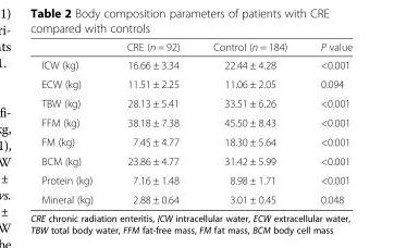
<table><thead><tr><td></td><td>CRE (n = 92)</td><td>Control (n = 184)</td><td>P value</td></tr></thead><tbody><tr><td>ICW (kg)</td><td>16.66 ± 3.34</td><td>22.44 ± 4.28</td><td>&lt;0.001</td></tr><tr><td>ECW (kg)</td><td>11.51 ± 2.25</td><td>11.06 ± 2.05</td><td>0.094</td></tr><tr><td>TBW (kg)</td><td>28.13 ± 5.41</td><td>33.51 ± 6.26</td><td>&lt;0.001</td></tr><tr><td>FFM (kg)</td><td>38.18 ± 7.38</td><td>45.50 ± 8.43</td><td>&lt;0.001</td></tr><tr><td>FM (kg)</td><td>7.45 ± 4.77</td><td>18.30 ± 5.64</td><td>&lt;0.001</td></tr><tr><td>BCM (kg)</td><td>23.86 ± 4.77</td><td>31.42 ± 5.99</td><td>&lt;0.001</td></tr><tr><td>Protein (kg)</td><td>7.16 ± 1.48</td><td>8.98 ± 1.71</td><td>&lt;0.001</td></tr><tr><td>Mineral (kg)</td><td>2.88 ± 0.64</td><td>3.01 ± 0.45</td><td>0.048</td></tr></tbody></table>